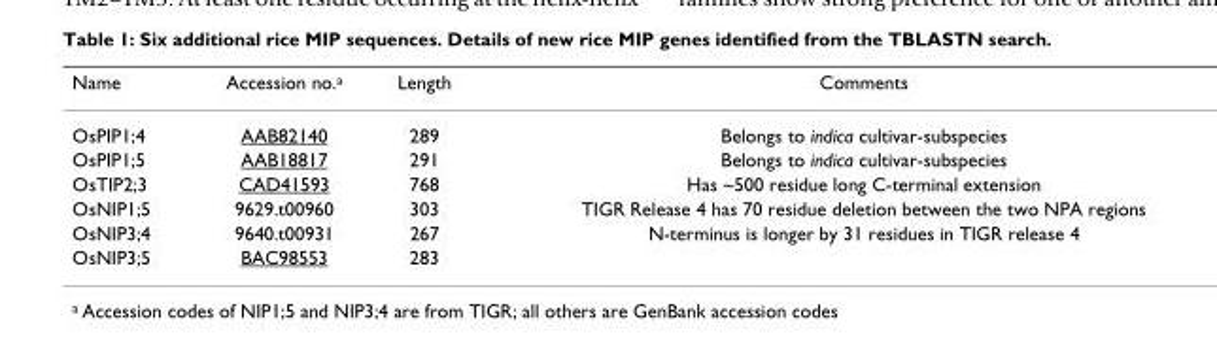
<table><thead><tr><td>Name</td><td>Accession no.a</td><td>Length</td><td>Comments</td></tr></thead><tbody><tr><td>OsPIP1;4</td><td>AAB82140</td><td>289</td><td>Belongs to indica cultivar-subspecies</td></tr><tr><td>OsPIP1;5</td><td>AAB18817</td><td>291</td><td>Belongs to indica cultivar-subspecies</td></tr><tr><td>OsTIP2;3</td><td>CAD41593</td><td>768</td><td>Has ~500 residue long C-terminal extension</td></tr><tr><td>OsNIP1;5</td><td>9629.t00960</td><td>303</td><td>TIGR Release 4 has 70 residue deletion between the two NPA regions</td></tr><tr><td>OsNIP3;4</td><td>9640.t00931</td><td>267</td><td>N-terminus is longer by 31 residues in TIGR release 4</td></tr><tr><td>OsNIP3;5</td><td>BAC98553</td><td>283</td><td></td></tr></tbody></table>